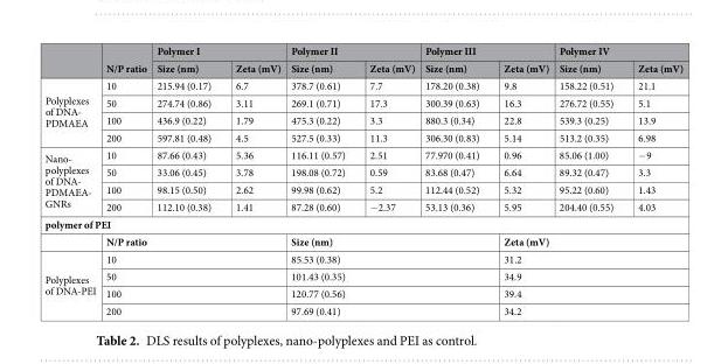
<table><thead><tr><td rowspan="2"></td><td rowspan="2">N/P ratio</td><td colspan="2">Polymer I</td><td colspan="2">Polymer II</td><td colspan="2">Polymer III</td><td colspan="2">Polymer IV</td></tr><tr><td>Size (nm)</td><td>Zeta (mV)</td><td>Size (nm)</td><td>Zeta (mV)</td><td>Size (nm)</td><td>Zeta (mV)</td><td>Size (nm)</td><td>Zeta (mV)</td></tr></thead><tbody><tr><td rowspan="4">Polyplexes of DNA- PDMAEA</td><td>10</td><td>215.94 (0.17)</td><td>6.7</td><td>378.7 (0.61)</td><td>7.7</td><td>178.20 (0.38)</td><td>9.8</td><td>158.22 (0.51)</td><td>21.1</td></tr><tr><td>50</td><td>274.74 (0.86)</td><td>3.11</td><td>269.1 (0.71)</td><td>17.3</td><td>300.39 (0.63)</td><td>16.3</td><td>276.72 (0.55)</td><td>5.1</td></tr><tr><td>100</td><td>436.9 (0.22)</td><td>1.79</td><td>475.3 (0.22)</td><td>3.3</td><td>880.3 (0.34)</td><td>22.8</td><td>539.3 (0.25)</td><td>13.9</td></tr><tr><td>200</td><td>597.81 (0.48)</td><td>4.5</td><td>527.5 (0.33)</td><td>11.3</td><td>306.30 (0.83)</td><td>5.14</td><td>513.2 (0.35)</td><td>6.98</td></tr><tr><td rowspan="4">Nano- polyplexes of DNA- PDMAEA- GNRs</td><td>10</td><td>87.66 (0.43)</td><td>5.36</td><td>116.11 (0.57)</td><td>2.51</td><td>77.970 (0.41)</td><td>0.96</td><td>85.06 (1.00)</td><td>−9</td></tr><tr><td>50</td><td>33.06 (0.45)</td><td>3.78</td><td>198.08 (0.72)</td><td>0.59</td><td>83.68 (0.47)</td><td>6.64</td><td>89.32 (0.47)</td><td>3.3</td></tr><tr><td>100</td><td>98.15 (0.50)</td><td>2.62</td><td>99.98 (0.62)</td><td>5.2</td><td>112.44 (0.52)</td><td>5.32</td><td>95.22 (0.60)</td><td>1.43</td></tr><tr><td>200</td><td>112.10 (0.38)</td><td>1.41</td><td>87.28 (0.60)</td><td>−2.37</td><td>53.13 (0.36)</td><td>5.95</td><td>204.40 (0.55)</td><td>4.03</td></tr><tr><td colspan="10">polymer of PEI</td></tr><tr><td></td><td colspan="3">N/P ratio</td><td colspan="3">Size (nm)</td><td colspan="3">Zeta (mV)</td></tr><tr><td rowspan="4">Polyplexes of DNA-PEI</td><td colspan="3">10</td><td colspan="3">85.53 (0.38)</td><td colspan="3">31.2</td></tr><tr><td colspan="3">50</td><td colspan="3">101.43 (0.35)</td><td colspan="3">34.9</td></tr><tr><td colspan="3">100</td><td colspan="3">120.77 (0.56)</td><td colspan="3">39.4</td></tr><tr><td colspan="3">200</td><td colspan="3">97.69 (0.41)</td><td colspan="3">34.2</td></tr></tbody></table>